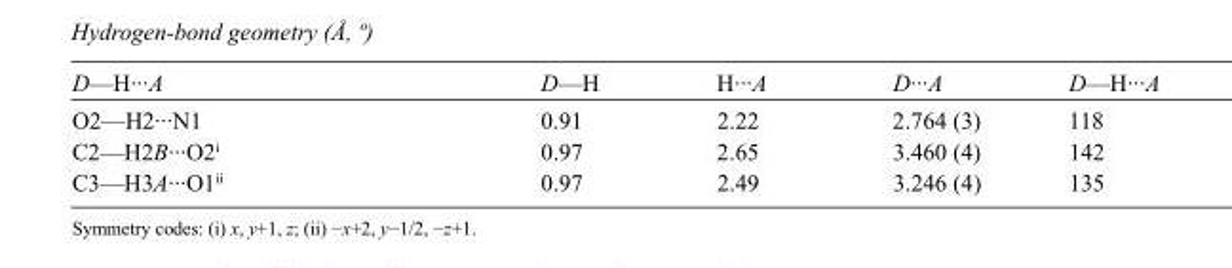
<table><tbody><tr><td>D—H···A</td><td>D—H</td><td>H···A</td><td>D···A</td><td>D—H···A</td></tr><tr><td>O2—H2···N1</td><td>0.91</td><td>2.22</td><td>2.764 (3)</td><td>118</td></tr><tr><td>C2—H2B···O2<sup>i</sup></td><td>0.97</td><td>2.65</td><td>3.460 (4)</td><td>142</td></tr><tr><td>C3—H3A···O1<sup>ii</sup></td><td>0.97</td><td>2.49</td><td>3.246 (4)</td><td>135</td></tr></tbody></table>